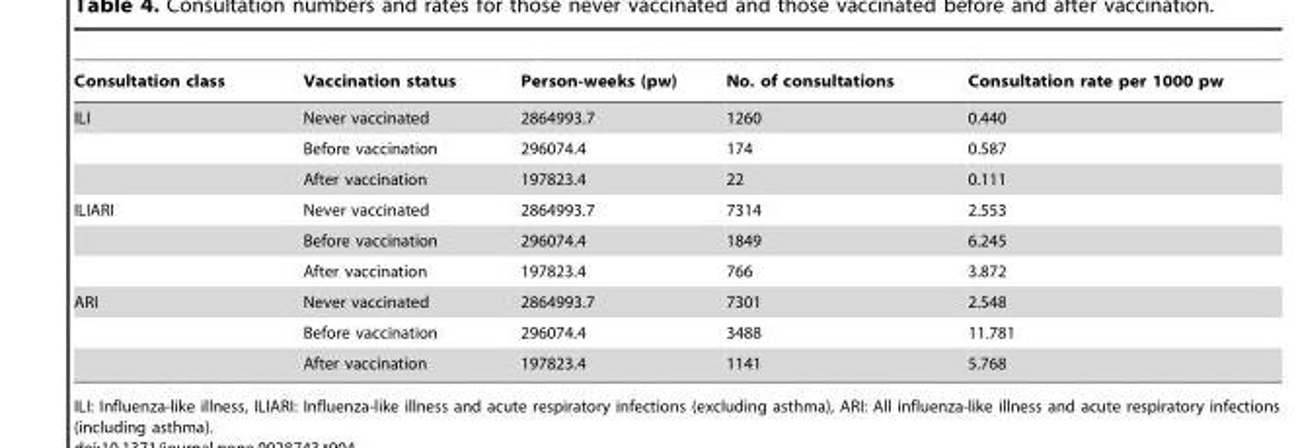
<table><thead><tr><td>Consultation class</td><td>Vaccination status</td><td>Person-weeks (pw)</td><td>No. of consultations</td><td>Consultation rate per 1000 pw</td></tr></thead><tbody><tr><td rowspan="3">ILI</td><td>Never vaccinated</td><td>2864993.7</td><td>1260</td><td>0.440</td></tr><tr><td>Before vaccination</td><td>296074.4</td><td>174</td><td>0.587</td></tr><tr><td>After vaccination</td><td>197823.4</td><td>22</td><td>0.111</td></tr><tr><td rowspan="3">ILIARI</td><td>Never vaccinated</td><td>2864993.7</td><td>7314</td><td>2.553</td></tr><tr><td>Before vaccination</td><td>296074.4</td><td>1849</td><td>6.245</td></tr><tr><td>After vaccination</td><td>197823.4</td><td>766</td><td>3.872</td></tr><tr><td rowspan="3">ARI</td><td>Never vaccinated</td><td>2864993.7</td><td>7301</td><td>2.548</td></tr><tr><td>Before vaccination</td><td>296074.4</td><td>3488</td><td>11.781</td></tr><tr><td>After vaccination</td><td>197823.4</td><td>1141</td><td>5.768</td></tr></tbody></table>